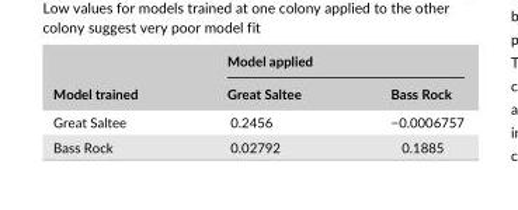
<table><thead><tr><td rowspan="2">Model trained</td><td colspan="2">Model applied</td></tr><tr><td>Great Saltee</td><td>Bass Rock</td></tr></thead><tbody><tr><td>Great Saltee</td><td>0.2456</td><td>−0.0006757</td></tr><tr><td>Bass Rock</td><td>0.02792</td><td>0.1885</td></tr></tbody></table>